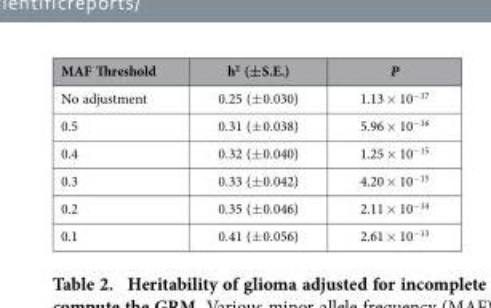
<table><thead><tr><td>MAF Threshold</td><td>h<sup>2</sup> (±S.E.)</td><td>P</td></tr></thead><tbody><tr><td>No adjustment</td><td>0.25 (± 0.030)</td><td>1.13 × 10<sup>−17</sup></td></tr><tr><td>0.5</td><td>0.31 (± 0.038)</td><td>5.96 × 10<sup>−16</sup></td></tr><tr><td>0.4</td><td>0.32 (± 0.040)</td><td>1.25 × 10<sup>−15</sup></td></tr><tr><td>0.3</td><td>0.33 (± 0.042)</td><td>4.20 × 10<sup>−15</sup></td></tr><tr><td>0.2</td><td>0.35 (± 0.046)</td><td>2.11 × 10<sup>−14</sup></td></tr><tr><td>0.1</td><td>0.41 (± 0.056)</td><td>2.61 × 10<sup>−13</sup></td></tr></tbody></table>